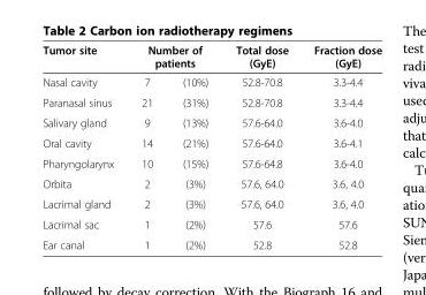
<table><thead><tr><td rowspan="2">Tumor site Nasal cavity</td><td colspan="2">Number of patients</td><td rowspan="2">Total dose (GyE) 52.8-70.8</td><td rowspan="2">Fraction dose (GyE) 3.3-4.4</td></tr><tr><td>7</td><td>(10%)</td></tr></thead><tbody><tr><td>Paranasal sinus</td><td>21</td><td>(31%)</td><td>52.8-70.8</td><td>3.3-4.4</td></tr><tr><td>Salivary gland</td><td>9</td><td>(13%)</td><td>57.6-64.0</td><td>3.6-4.0</td></tr><tr><td>Oral cavity</td><td>14</td><td>(21%)</td><td>57.6-64.0</td><td>3.6-4.1</td></tr><tr><td>Pharyngolarynx</td><td>10</td><td>(15%)</td><td>57.6-64.8</td><td>3.6-4.0</td></tr><tr><td>Orbita</td><td>2</td><td>(3%)</td><td>57.6, 64.0</td><td>3.6, 4.0</td></tr><tr><td>Lacrimal gland</td><td>2</td><td>(3%)</td><td>57.6, 64.0</td><td>3.6, 4.0</td></tr><tr><td>Lacrimal sac</td><td>1</td><td>(2%)</td><td>57.6</td><td>57.6</td></tr><tr><td>Ear canal</td><td>1</td><td>(2%)</td><td>52.8</td><td>52.8</td></tr></tbody></table>